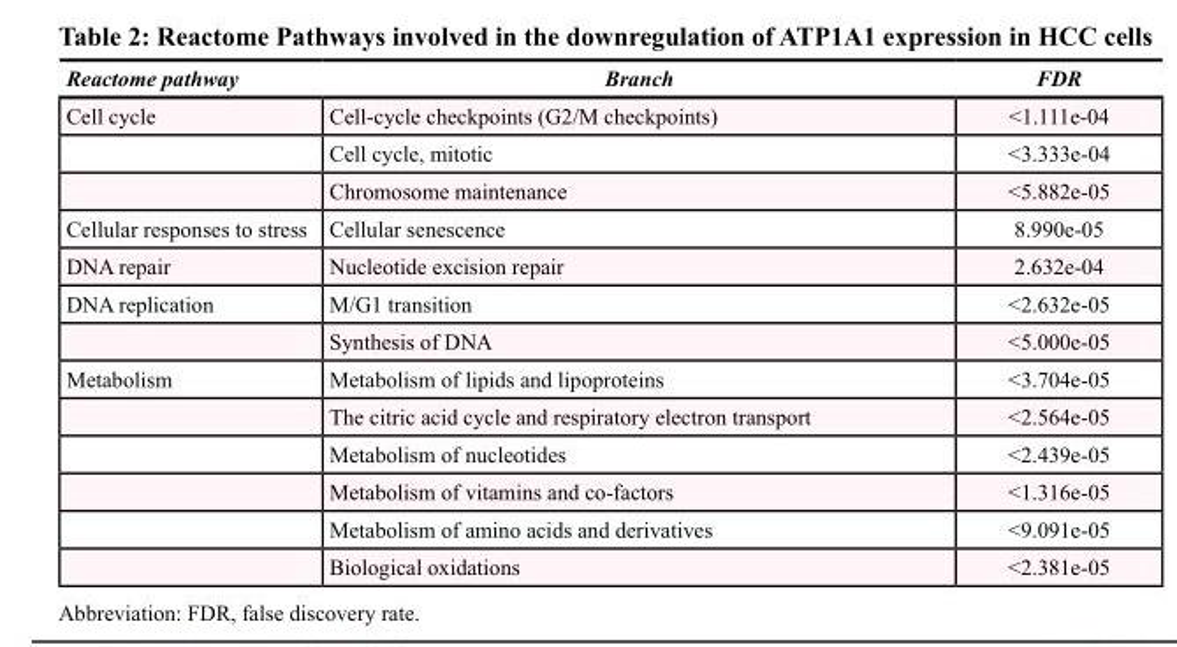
<table><thead><tr><td>Reactome pathway</td><td>Branch</td><td>FDR</td></tr></thead><tbody><tr><td rowspan="3">Cell cycle</td><td>Cell-cycle checkpoints (G2/M checkpoints)</td><td>&lt;1.111e-04</td></tr><tr><td>Cell cycle, mitotic</td><td>&lt;3.333e-04</td></tr><tr><td>Chromosome maintenance</td><td>&lt;5.882e-05</td></tr><tr><td>Cellular responses to stress</td><td>Cellular senescence</td><td>8.990e-05</td></tr><tr><td>DNA repair</td><td>Nucleotide excision repair</td><td>2.632e-04</td></tr><tr><td rowspan="2">DNA replication</td><td>M/G1 transition</td><td>&lt;2.632e-05</td></tr><tr><td>Synthesis of DNA</td><td>&lt;5.000e-05</td></tr><tr><td rowspan="6">Metabolism</td><td>Metabolism of lipids and lipoproteins</td><td>&lt;3.704e-05</td></tr><tr><td>The citric acid cycle and respiratory electron transport</td><td>&lt;2.564e-05</td></tr><tr><td>Metabolism of nucleotides</td><td>&lt;2.439e-05</td></tr><tr><td>Metabolism of vitamins and co-factors</td><td>&lt;1.316e-05</td></tr><tr><td>Metabolism of amino acids and derivatives</td><td>&lt;9.091e-05</td></tr><tr><td>Biological oxidations</td><td>&lt;2.381e-05</td></tr></tbody></table>